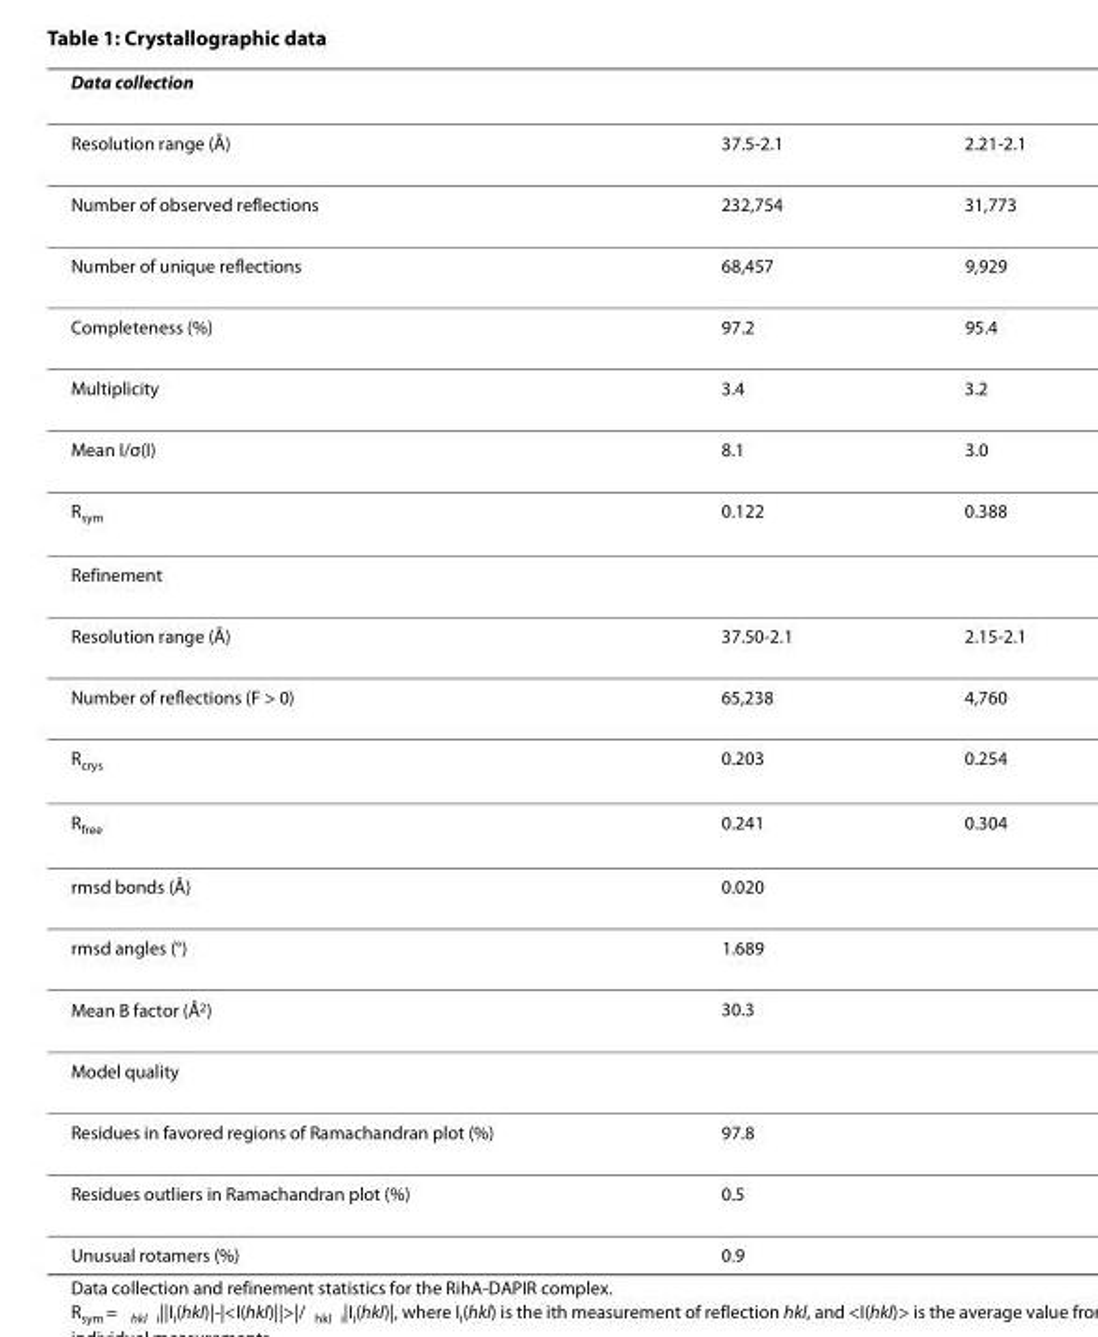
<table><thead><tr><td>Data collection</td><td></td><td></td></tr></thead><tbody><tr><td>Resolution range (Å)</td><td>37.5-2.1</td><td>2.21-2.1</td></tr><tr><td>Number of observed reflections</td><td>232,754</td><td>31,773</td></tr><tr><td>Number of unique reflections</td><td>68,457</td><td>9,929</td></tr><tr><td>Completeness (%)</td><td>97.2</td><td>95.4</td></tr><tr><td>Multiplicity</td><td>3.4</td><td>3.2</td></tr><tr><td>Mean I/σ(I)</td><td>8.1</td><td>3.0</td></tr><tr><td>R<sub>sym</sub></td><td>0.122</td><td>0.388</td></tr><tr><td colspan="3">Refinement</td></tr><tr><td>Resolution range (Å)</td><td>37.50-2.1</td><td>2.15-2.1</td></tr><tr><td>Number of reflections (F &gt; 0)</td><td>65,238</td><td>4,760</td></tr><tr><td>R<sub>crys</sub></td><td>0.203</td><td>0.254</td></tr><tr><td>R<sub>free</sub></td><td>0.241</td><td>0.304</td></tr><tr><td>rmsd bonds (Å)</td><td>0.020</td><td></td></tr><tr><td>rmsd angles (°)</td><td>1.689</td><td></td></tr><tr><td>Mean B factor (Å<sup>2</sup>)</td><td>30.3</td><td></td></tr><tr><td colspan="3">Model quality</td></tr><tr><td>Residues in favored regions of Ramachandran plot (%)</td><td>97.8</td><td></td></tr><tr><td>Residues outliers in Ramachandran plot (%)</td><td>0.5</td><td></td></tr><tr><td>Unusual rotamers (%)</td><td>0.9</td><td></td></tr></tbody></table>